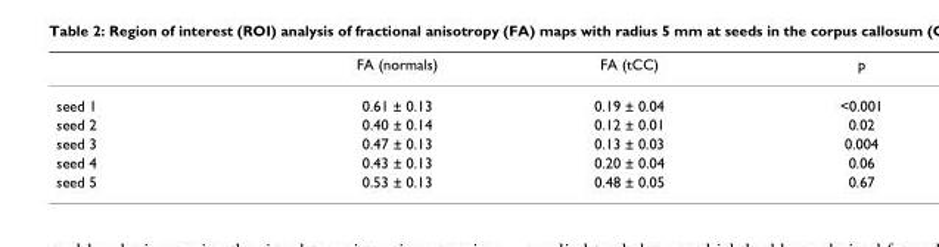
<table><thead><tr><td></td><td>FA (normals)</td><td>FA (tCC)</td><td>p</td></tr></thead><tbody><tr><td>seed 1</td><td>0.61 ± 0.13</td><td>0.19 ± 0.04</td><td>&lt;0.001</td></tr><tr><td>seed 2</td><td>0.40 ± 0.14</td><td>0.12 ± 0.01</td><td>0.02</td></tr><tr><td>seed 3</td><td>0.47 ± 0.13</td><td>0.13 ± 0.03</td><td>0.004</td></tr><tr><td>seed 4</td><td>0.43 ± 0.13</td><td>0.20 ± 0.04</td><td>0.06</td></tr><tr><td>seed 5</td><td>0.53 ± 0.13</td><td>0.48 ± 0.05</td><td>0.67</td></tr></tbody></table>